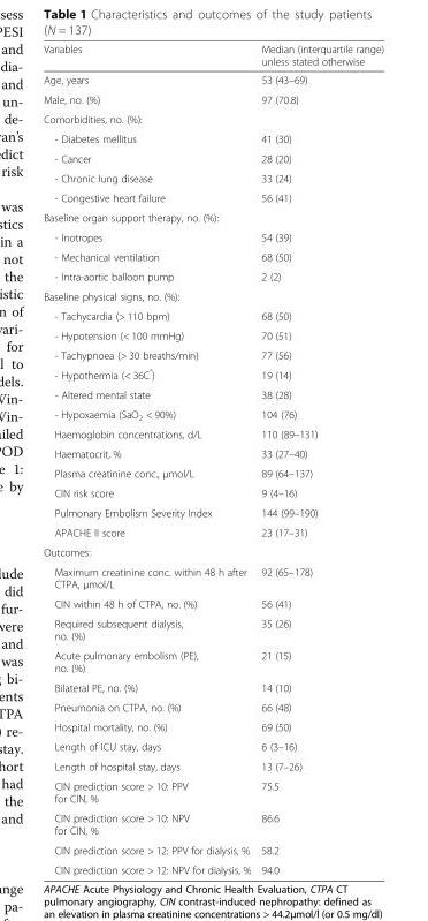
<table><thead><tr><td>Variables</td><td>Median (interquartile range) unless stated otherwise</td></tr></thead><tbody><tr><td>Age, years</td><td>53 (43–69)</td></tr><tr><td>Male, no. (%)</td><td>97 (70.8)</td></tr><tr><td colspan="2">Comorbidities, no. (%):</td></tr><tr><td>- Diabetes mellitus</td><td>41 (30)</td></tr><tr><td>- Cancer</td><td>28 (20)</td></tr><tr><td>- Chronic lung disease</td><td>33 (24)</td></tr><tr><td>- Congestive heart failure</td><td>56 (41)</td></tr><tr><td colspan="2">Baseline organ support therapy, no. (%):</td></tr><tr><td>- Inotropes</td><td>54 (39)</td></tr><tr><td>- Mechanical ventilation</td><td>68 (50)</td></tr><tr><td>- Intra-aortic balloon pump</td><td>2 (2)</td></tr><tr><td colspan="2">Baseline physical signs, no. (%):</td></tr><tr><td>- Tachycardia (&gt; 110 bpm)</td><td>68 (50)</td></tr><tr><td>- Hypotension (&lt; 100 mmHg)</td><td>70 (51)</td></tr><tr><td>- Tachypnoea (&gt; 30 breaths/min)</td><td>77 (56)</td></tr><tr><td>- Hypothermia (&lt; 36C<sup>°</sup>)</td><td>19 (14)</td></tr><tr><td>- Altered mental state</td><td>38 (28)</td></tr><tr><td>- Hypoxaemia (SaO<sub>2</sub> &lt; 90%)</td><td>104 (76)</td></tr><tr><td>Haemoglobin concentrations, d/L</td><td>110 (89–131)</td></tr><tr><td>Haematocrit, %</td><td>33 (27–40)</td></tr><tr><td>Plasma creatinine conc., μmol/L</td><td>89 (64–137)</td></tr><tr><td>CIN risk score</td><td>9 (4–16)</td></tr><tr><td>Pulmonary Embolism Severity Index</td><td>144 (99–190)</td></tr><tr><td>APACHE II score</td><td>23 (17–31)</td></tr><tr><td colspan="2">Outcomes:</td></tr><tr><td>Maximum creatinine conc. within 48 h after CTPA, μmol/L</td><td>92 (65–178)</td></tr><tr><td>CIN within 48 h of CTPA, no. (%)</td><td>56 (41)</td></tr><tr><td>Required subsequent dialysis, no. (%)</td><td>35 (26)</td></tr><tr><td>Acute pulmonary embolism (PE), no. (%)</td><td>21 (15)</td></tr><tr><td>Bilateral PE, no. (%)</td><td>14 (10)</td></tr><tr><td>Pneumonia on CTPA, no. (%)</td><td>66 (48)</td></tr><tr><td>Hospital mortality, no. (%)</td><td>69 (50)</td></tr><tr><td>Length of ICU stay, days</td><td>6 (3–16)</td></tr><tr><td>Length of hospital stay, days</td><td>13 (7–26)</td></tr><tr><td>CIN prediction score &gt; 10: PPV for CIN, %</td><td>75.5</td></tr><tr><td>CIN prediction score &gt; 10: NPV for CIN, %</td><td>86.6</td></tr><tr><td>CIN prediction score &gt; 12: PPV for dialysis, %</td><td>58.2</td></tr><tr><td>CIN prediction score &gt; 12: NPV for dialysis, %</td><td>94.0</td></tr></tbody></table>